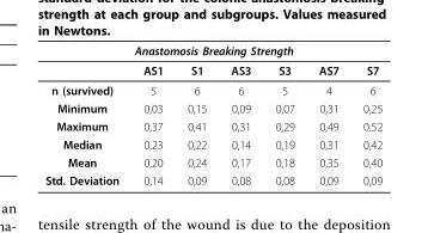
<table><thead><tr><td colspan="7">Anastomosis Breaking Strength</td></tr><tr><td></td><td>AS1</td><td>S1</td><td>AS3</td><td>S3</td><td>AS7</td><td>S7</td></tr></thead><tbody><tr><td>n (survived)</td><td>5</td><td>6</td><td>6</td><td>5</td><td>4</td><td>6</td></tr><tr><td>Minimum</td><td>0,03</td><td>0,15</td><td>0,09</td><td>0,07</td><td>0,31</td><td>0,25</td></tr><tr><td>Maximum</td><td>0,37</td><td>0,41</td><td>0,31</td><td>0,29</td><td>0,49</td><td>0,52</td></tr><tr><td>Median</td><td>0,23</td><td>0,22</td><td>0,14</td><td>0,19</td><td>0,31</td><td>0,42</td></tr><tr><td>Mean</td><td>0,20</td><td>0,24</td><td>0,17</td><td>0,18</td><td>0,35</td><td>0,40</td></tr><tr><td>Std. Deviation</td><td>0,14</td><td>0,09</td><td>0,08</td><td>0,08</td><td>0,09</td><td>0,09</td></tr></tbody></table>